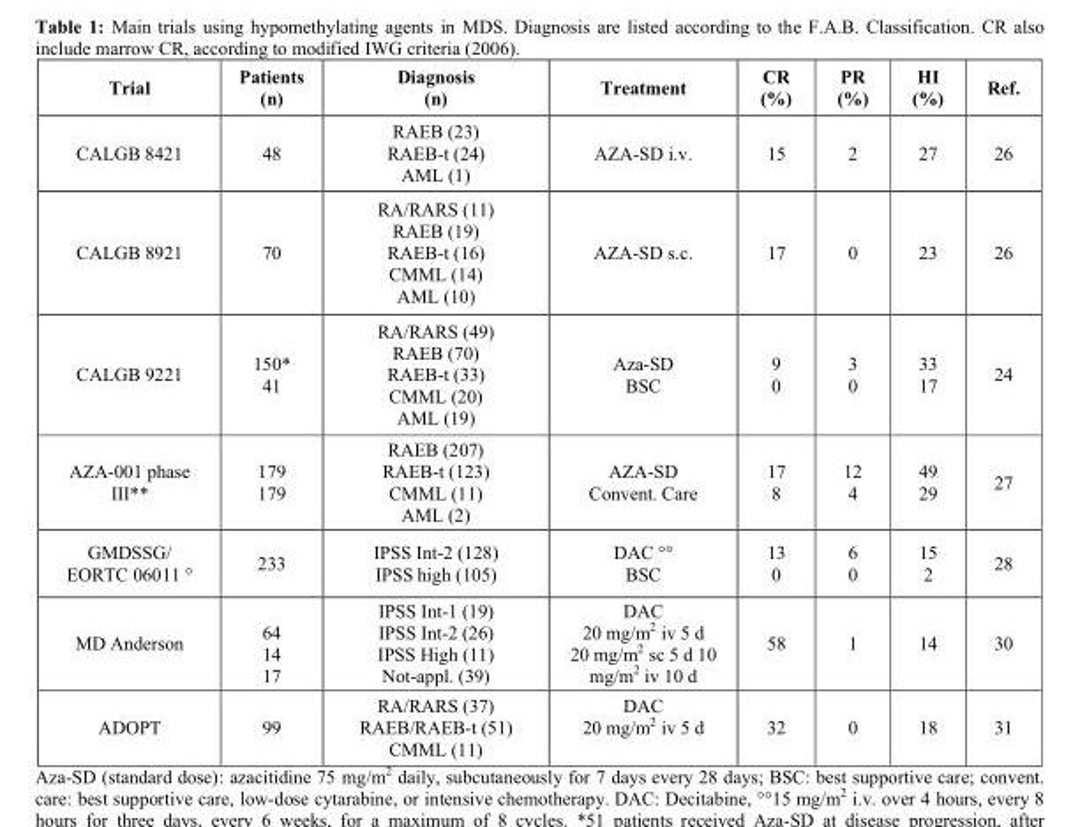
<table><thead><tr><td>Trial</td><td>Patients (n)</td><td>Diagnosis (n)</td><td>Treatment</td><td>CR (%)</td><td>PR (%)</td><td>HI (%)</td><td>Ref.</td></tr></thead><tbody><tr><td>CALGB 8421</td><td>48</td><td>RAEB (23) RAEB-t (24) AML (1)</td><td>AZA-SD i.v.</td><td>15</td><td>2</td><td>27</td><td>26</td></tr><tr><td>CALGB 8921</td><td>70</td><td>RA/RARS (11) RAEB (19) RAEB-t (16) CMML (14) AML (10)</td><td>AZA-SD s.c.</td><td>17</td><td>0</td><td>23</td><td>26</td></tr><tr><td>CALGB 9221</td><td>150* 41</td><td>RA/RARS (49) RAEB (70) RAEB-t (33) CMML (20) AML (19)</td><td>Aza-SD BSC</td><td>9 0</td><td>3 0</td><td>33 17</td><td>24</td></tr><tr><td>AZA-001 phase III**</td><td>179 179</td><td>RAEB (207) RAEB-t (123) CMML (11) AML (2)</td><td>AZA-SD Convent. Care</td><td>17 8</td><td>12 4</td><td>49 29</td><td>27</td></tr><tr><td>GMDSSG/ EORTC 06011 °</td><td>233</td><td>IPSS Int-2 (128) IPSS high (105)</td><td>DAC °° BSC</td><td>13 0</td><td>6 0</td><td>15 2</td><td>28</td></tr><tr><td>MD Anderson</td><td>64 14 17</td><td>IPSS Int-1 (19) IPSS Int-2 (26) IPSS High (11) Not-appl. (39)</td><td>DAC 20 mg/m<sup>2</sup> iv 5 d 20 mg/m<sup>2</sup> sc 5 d 10 mg/m<sup>2</sup> iv 10 d</td><td>58</td><td>1</td><td>14</td><td>30</td></tr><tr><td>ADOPT</td><td>99</td><td>RA/RARS (37) RAEB/RAEB-t (51) CMML (11)</td><td>DAC 20 mg/m<sup>2</sup> iv 5 d</td><td>32</td><td>0</td><td>18</td><td>31</td></tr></tbody></table>